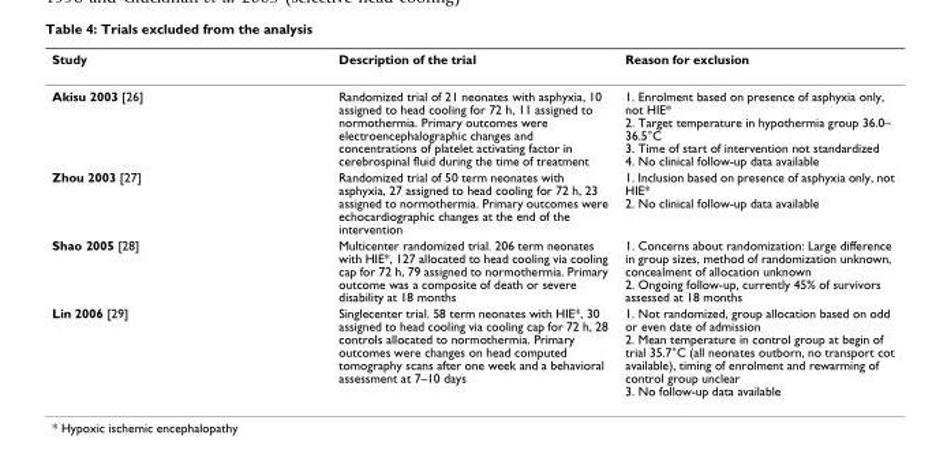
<table><thead><tr><td>Study</td><td>Description of the trial</td><td>Reason for exclusion</td></tr></thead><tbody><tr><td>Akisu 2003 [26]</td><td>Randomized trial of 21 neonates with asphyxia, 10 assigned to head cooling for 72 h, 11 assigned to normothermia. Primary outcomes were electroencephalographic changes and concentrations of platelet activating factor in cerebrospinal fluid during the time of treatment</td><td>1. Enrolment based on presence of asphyxia only, not HIE* 2. Target temperature in hypothermia group 36.0– 36.5°C 3. Time of start of intervention not standardized 4. No clinical follow-up data available</td></tr><tr><td>Zhou 2003 [27]</td><td>Randomized trial of 50 term neonates with asphyxia, 27 assigned to head cooling for 72 h, 23 assigned to normothermia. Primary outcomes were echocardiographic changes at the end of the intervention</td><td>1. Inclusion based on presence of asphyxia only, not HIE* 2. No clinical follow-up data available</td></tr><tr><td>Shao 2005 [28]</td><td>Multicenter randomized trial. 206 term neonates with HIE*, 127 allocated to head cooling via cooling cap for 72 h, 79 assigned to normothermia. Primary outcome was a composite of death or severe disability at 18 months</td><td>1. Concerns about randomization: Large difference in group sizes, method of randomization unknown, concealment of allocation unknown 2. Ongoing follow-up, currently 45% of survivors assessed at 18 months</td></tr><tr><td>Lin 2006 [29]</td><td>Singlecenter trial. 58 term neonates with HIE*, 30 assigned to head cooling via cooling cap for 72 h, 28 controls allocated to normothermia. Primary outcomes were changes on head computed tomography scans after one week and a behavioral assessment at 7–10 days</td><td>1. Not randomized, group allocation based on odd or even date of admission 2. Mean temperature in control group at begin of trial 35.7°C (all neonates outborn, no transport cot available), timing of enrolment and rewarming of control group unclear 3. No follow-up data available</td></tr></tbody></table>